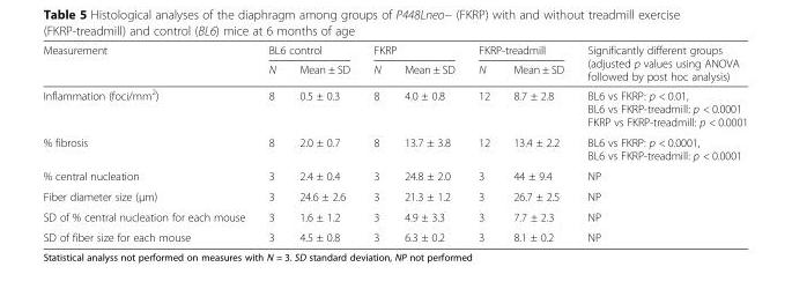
<table><thead><tr><td rowspan="2">Measurement</td><td colspan="2">BL6 control</td><td colspan="2">FKRP</td><td colspan="2">FKRP-treadmill</td><td rowspan="2">Significantly different groups (adjusted p values using ANOVA followed by post hoc analysis)</td></tr><tr><td>N</td><td>Mean ± SD</td><td>N</td><td>Mean ± SD</td><td>N</td><td>Mean ± SD</td></tr></thead><tbody><tr><td>Inflammation (foci/mm<sup>2</sup>)</td><td>8</td><td>0.5 ± 0.3</td><td>8</td><td>4.0 ± 0.8</td><td>12</td><td>8.7 ± 2.8</td><td>BL6 vs FKRP: p &lt; 0.01, BL6 vs FKRP-treadmill: p &lt; 0.0001 FKRP vs FKRP-treadmill: p &lt; 0.0001</td></tr><tr><td>% fibrosis</td><td>8</td><td>2.0 ± 0.7</td><td>8</td><td>13.7 ± 3.8</td><td>12</td><td>13.4 ± 2.2</td><td>BL6 vs FKRP: p &lt; 0.0001, BL6 vs FKRP-treadmill: p &lt; 0.0001</td></tr><tr><td>% central nucleation</td><td>3</td><td>2.4 ± 0.4</td><td>3</td><td>24.8 ± 2.0</td><td>3</td><td>44 ± 9.4</td><td>NP</td></tr><tr><td>Fiber diameter size (μm)</td><td>3</td><td>24.6 ± 2.6</td><td>3</td><td>21.3 ± 1.2</td><td>3</td><td>26.7 ± 2.5</td><td>NP</td></tr><tr><td>SD of % central nucleation for each mouse</td><td>3</td><td>1.6 ± 1.2</td><td>3</td><td>4.9 ± 3.3</td><td>3</td><td>7.7 ± 2.3</td><td>NP</td></tr><tr><td>SD of fiber size for each mouse</td><td>3</td><td>4.5 ± 0.8</td><td>3</td><td>6.3 ± 0.2</td><td>3</td><td>8.1 ± 0.2</td><td>NP</td></tr></tbody></table>